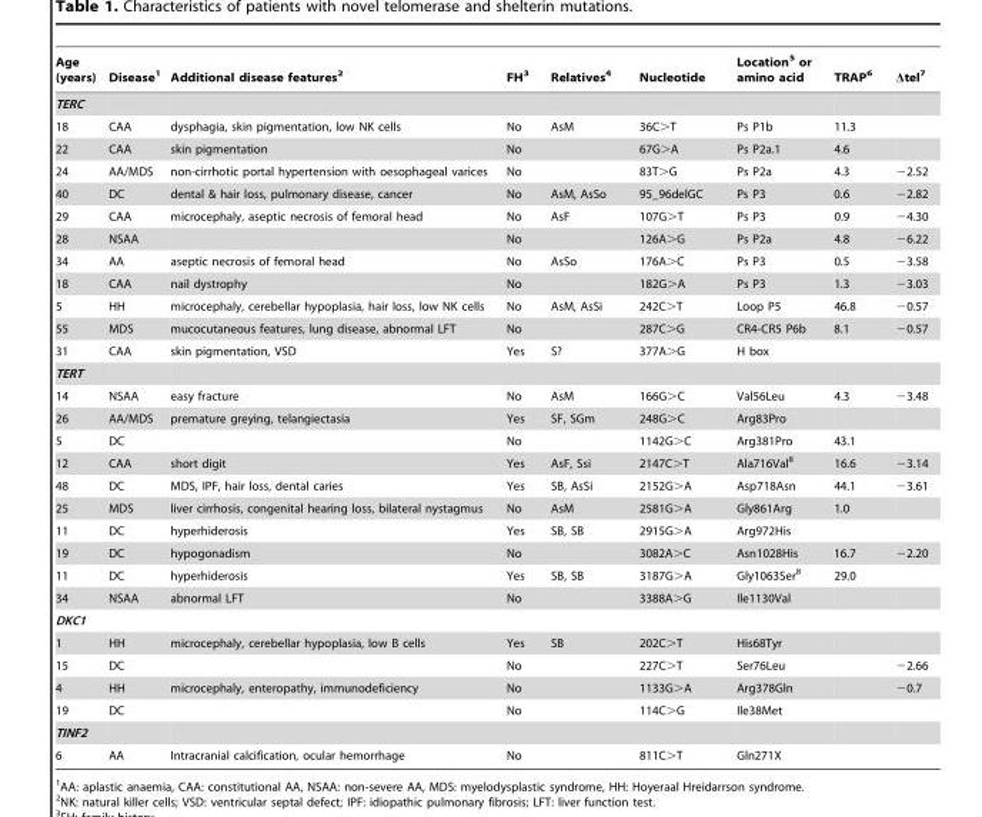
<table><thead><tr><td>Age (years)</td><td>Disease<sup>1</sup></td><td>Additional disease features<sup>2</sup></td><td>FH<sup>3</sup></td><td>Relatives<sup>4</sup></td><td>Nucleotide</td><td>Location<sup>5</sup> or amino acid</td><td>TRAP<sup>6</sup></td><td>Δtel<sup>7</sup></td></tr></thead><tbody><tr><td colspan="9">TERC</td></tr><tr><td>18</td><td>CAA</td><td>dysphagia, skin pigmentation, low NK cells</td><td>No</td><td>AsM</td><td>36C&gt;T</td><td>Ps P1b</td><td>11.3</td><td></td></tr><tr><td>22</td><td>CAA</td><td>skin pigmentation</td><td>No</td><td></td><td>67G&gt;A</td><td>Ps P2a.1</td><td>4.6</td><td></td></tr><tr><td>24</td><td>AA/MDS</td><td>non-cirrhotic portal hypertension with oesophageal varices</td><td>No</td><td></td><td>83T&gt;G</td><td>Ps P2a</td><td>4.3</td><td>−2.52</td></tr><tr><td>40</td><td>DC</td><td>dental &amp; hair loss, pulmonary disease, cancer</td><td>No</td><td>AsM, AsSo</td><td>95_96delGC</td><td>Ps P3</td><td>0.6</td><td>−2.82</td></tr><tr><td>29</td><td>CAA</td><td>microcephaly, aseptic necrosis of femoral head</td><td>No</td><td>AsF</td><td>107G&gt;T</td><td>Ps P3</td><td>0.9</td><td>−4.30</td></tr><tr><td>28</td><td>NSAA</td><td></td><td>No</td><td></td><td>126A&gt;G</td><td>Ps P2a</td><td>4.8</td><td>−6.22</td></tr><tr><td>34</td><td>AA</td><td>aseptic necrosis of femoral head</td><td>No</td><td>AsSo</td><td>176A&gt;C</td><td>Ps P3</td><td>0.5</td><td>−3.58</td></tr><tr><td>18</td><td>CAA</td><td>nail dystrophy</td><td>No</td><td></td><td>182G&gt;A</td><td>Ps P3</td><td>1.3</td><td>−3.03</td></tr><tr><td>5</td><td>HH</td><td>microcephaly, cerebellar hypoplasia, hair loss, low NK cells</td><td>No</td><td>AsM, AsSi</td><td>242C&gt;T</td><td>Loop P5</td><td>46.8</td><td>−0.57</td></tr><tr><td>55</td><td>MDS</td><td>mucocutaneous features, lung disease, abnormal LFT</td><td>No</td><td></td><td>287C&gt;G</td><td>CR4-CR5 P6b</td><td>8.1</td><td>−0.57</td></tr><tr><td>31</td><td>CAA</td><td>skin pigmentation, VSD</td><td>Yes</td><td>S?</td><td>377A&gt;G</td><td>H box</td><td></td><td></td></tr><tr><td colspan="9">TERT</td></tr><tr><td>14</td><td>NSAA</td><td>easy fracture</td><td>No</td><td>AsM</td><td>166G&gt;C</td><td>Val56Leu</td><td>4.3</td><td>−3.48</td></tr><tr><td>26</td><td>AA/MDS</td><td>premature greying, telangiectasia</td><td>Yes</td><td>SF, SGm</td><td>248G&gt;C</td><td>Arg83Pro</td><td></td><td></td></tr><tr><td>5</td><td>DC</td><td></td><td>No</td><td></td><td>1142G&gt;C</td><td>Arg381Pro</td><td>43.1</td><td></td></tr><tr><td>12</td><td>CAA</td><td>short digit</td><td>Yes</td><td>AsF, Ssi</td><td>2147C&gt;T</td><td>Ala716Val<sup>8</sup></td><td>16.6</td><td>−3.14</td></tr><tr><td>48</td><td>DC</td><td>MDS, IPF, hair loss, dental caries</td><td>Yes</td><td>SB, AsSi</td><td>2152G&gt;A</td><td>Asp718Asn</td><td>44.1</td><td>−3.61</td></tr><tr><td>25</td><td>MDS</td><td>liver cirrhosis, congenital hearing loss, bilateral nystagmus</td><td>No</td><td>AsM</td><td>2581G&gt;A</td><td>Gly861Arg</td><td>1.0</td><td></td></tr><tr><td>11</td><td>DC</td><td>hyperhiderosis</td><td>Yes</td><td>SB, SB</td><td>2915G&gt;A</td><td>Arg972His</td><td></td><td></td></tr><tr><td>19</td><td>DC</td><td>hypogonadism</td><td>No</td><td></td><td>3082A&gt;C</td><td>Asn1028His</td><td>16.7</td><td>−2.20</td></tr><tr><td>11</td><td>DC</td><td>hyperhiderosis</td><td>Yes</td><td>SB, SB</td><td>3187G&gt;A</td><td>Gly1063Ser<sup>8</sup></td><td>29.0</td><td></td></tr><tr><td>34</td><td>NSAA</td><td>abnormal LFT</td><td>No</td><td></td><td>3388A&gt;G</td><td>Ile1130Val</td><td></td><td></td></tr><tr><td colspan="9">DKC1</td></tr><tr><td>1</td><td>HH</td><td>microcephaly, cerebellar hypoplasia, low B cells</td><td>Yes</td><td>SB</td><td>202C&gt;T</td><td>His68Tyr</td><td></td><td></td></tr><tr><td>15</td><td>DC</td><td></td><td>No</td><td></td><td>227C&gt;T</td><td>Ser76Leu</td><td></td><td>−2.66</td></tr><tr><td>4</td><td>HH</td><td>microcephaly, enteropathy, immunodeficiency</td><td>No</td><td></td><td>1133G&gt;A</td><td>Arg378Gln</td><td></td><td>−0.7</td></tr><tr><td>19</td><td>DC</td><td></td><td>No</td><td></td><td>114C&gt;G</td><td>Ile38Met</td><td></td><td></td></tr><tr><td colspan="9">TINF2</td></tr><tr><td>6</td><td>AA</td><td>Intracranial calcification, ocular hemorrhage</td><td>No</td><td></td><td>811C&gt;T</td><td>Gln271X</td><td></td><td></td></tr></tbody></table>